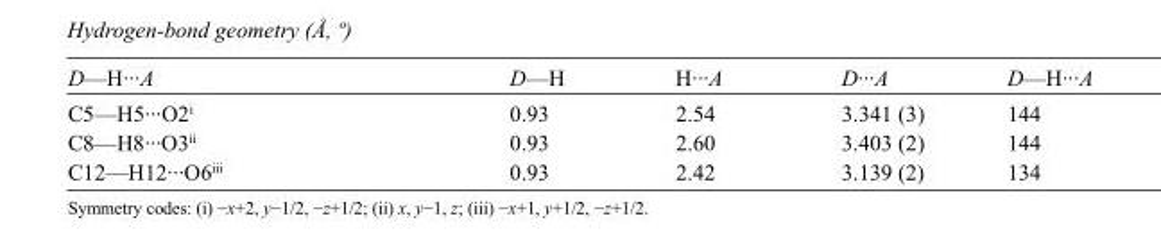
<table><tbody><tr><td>D—H···A</td><td>D—H</td><td>H···A</td><td>D···A</td><td>D—H···A</td></tr><tr><td>C5—H5···O2<sup>i</sup></td><td>0.93</td><td>2.54</td><td>3.341 (3)</td><td>144</td></tr><tr><td>C8—H8···O3<sup>ii</sup></td><td>0.93</td><td>2.60</td><td>3.403 (2)</td><td>144</td></tr><tr><td>C12—H12···O6<sup>iii</sup></td><td>0.93</td><td>2.42</td><td>3.139 (2)</td><td>134</td></tr></tbody></table>